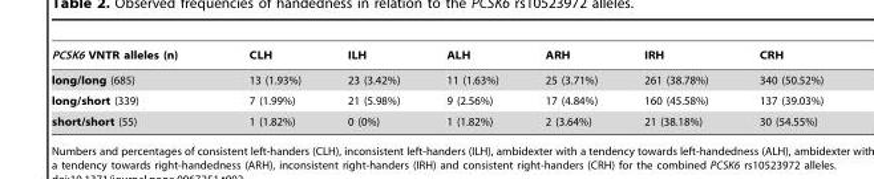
<table><thead><tr><td>PCSK6 VNTR alleles (n)</td><td>CLH</td><td>ILH</td><td>ALH</td><td>ARH</td><td>IRH</td><td>CRH</td></tr></thead><tbody><tr><td>long/long (685)</td><td>13 (1.93%)</td><td>23 (3.42%)</td><td>11 (1.63%)</td><td>25 (3.71%)</td><td>261 (38.78%)</td><td>340 (50.52%)</td></tr><tr><td>long/short (339)</td><td>7 (1.99%)</td><td>21 (5.98%)</td><td>9 (2.56%)</td><td>17 (4.84%)</td><td>160 (45.58%)</td><td>137 (39.03%)</td></tr><tr><td>short/short (55)</td><td>1 (1.82%)</td><td>0 (0%)</td><td>1 (1.82%)</td><td>2 (3.64%)</td><td>21 (38.18%)</td><td>30 (54.55%)</td></tr></tbody></table>